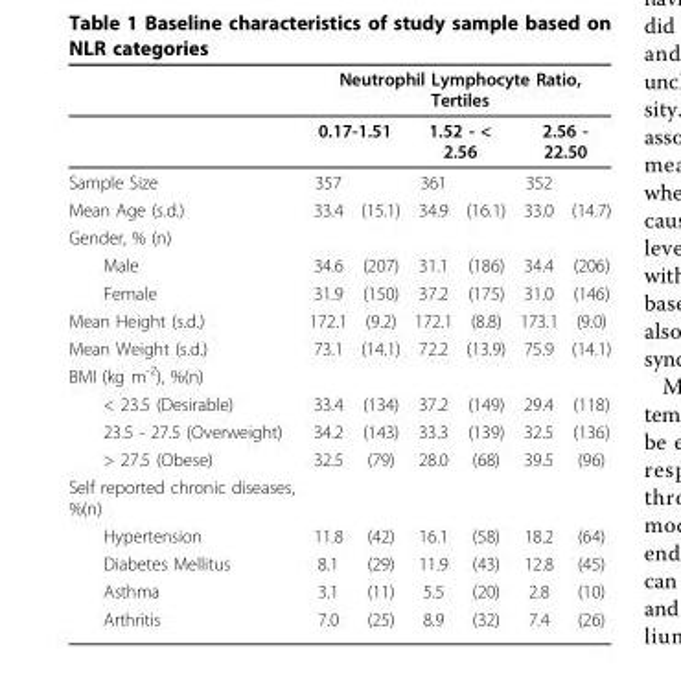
<table><thead><tr><td rowspan="3">Sample Size</td><td colspan="6">Neutrophil Lymphocyte Ratio, Tertiles</td></tr><tr><td colspan="2">0.17-1.51</td><td colspan="2">1.52 - &lt; 2.56</td><td colspan="2">2.56 - 22.50</td></tr><tr><td>357</td><td></td><td>361</td><td></td><td>352</td><td></td></tr></thead><tbody><tr><td>Mean Age (s.d.)</td><td>33.4</td><td>(15.1)</td><td>34.9</td><td>(16.1)</td><td>33.0</td><td>(14.7)</td></tr><tr><td colspan="7">Gender, % (n)</td></tr><tr><td>Male</td><td>34.6</td><td>(207)</td><td>31.1</td><td>(186)</td><td>34.4</td><td>(206)</td></tr><tr><td>Female</td><td>31.9</td><td>(150)</td><td>37.2</td><td>(175)</td><td>31.0</td><td>(146)</td></tr><tr><td>Mean Height (s.d.)</td><td>172.1</td><td>(9.2)</td><td>172.1</td><td>(8.8)</td><td>173.1</td><td>(9.0)</td></tr><tr><td>Mean Weight (s.d.)</td><td>73.1</td><td>(14.1)</td><td>72.2</td><td>(13.9)</td><td>75.9</td><td>(14.1)</td></tr><tr><td colspan="7">BMI (kg m<sup>-2</sup>), %(n)</td></tr><tr><td>&lt; 23.5 (Desirable)</td><td>33.4</td><td>(134)</td><td>37.2</td><td>(149)</td><td>29.4</td><td>(118)</td></tr><tr><td>23.5 - 27.5 (Overweight)</td><td>34.2</td><td>(143)</td><td>33.3</td><td>(139)</td><td>32.5</td><td>(136)</td></tr><tr><td>&gt; 27.5 (Obese)</td><td>32.5</td><td>(79)</td><td>28.0</td><td>(68)</td><td>39.5</td><td>(96)</td></tr><tr><td colspan="7">Self reported chronic diseases, %(n)</td></tr><tr><td>Hypertension</td><td>11.8</td><td>(42)</td><td>16.1</td><td>(58)</td><td>18.2</td><td>(64)</td></tr><tr><td>Diabetes Mellitus</td><td>8.1</td><td>(29)</td><td>11.9</td><td>(43)</td><td>12.8</td><td>(45)</td></tr><tr><td>Asthma</td><td>3.1</td><td>(11)</td><td>5.5</td><td>(20)</td><td>2.8</td><td>(10)</td></tr><tr><td>Arthritis</td><td>7.0</td><td>(25)</td><td>8.9</td><td>(32)</td><td>7.4</td><td>(26)</td></tr></tbody></table>